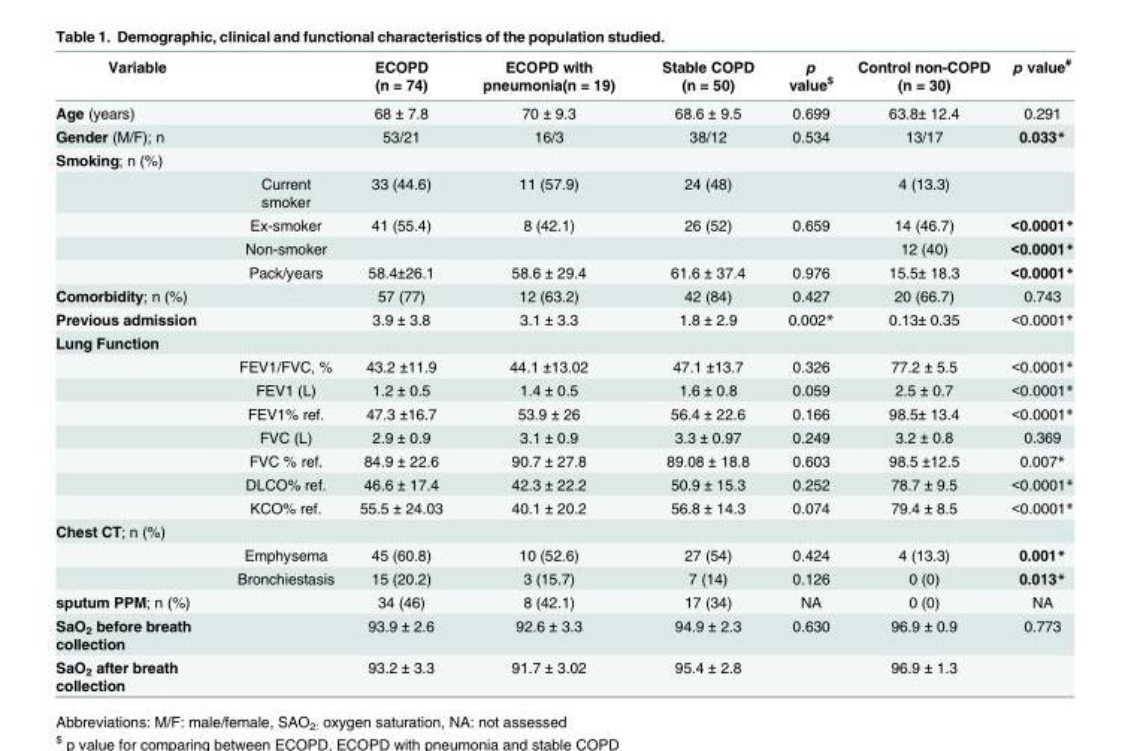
<table><thead><tr><td>Variable</td><td></td><td>ECOPD (n = 74)</td><td>ECOPD with pneumonia(n = 19)</td><td>Stable COPD (n = 50)</td><td>p value<sup>$</sup></td><td>Control non-COPD (n = 30)</td><td>p value<sup>#</sup></td></tr></thead><tbody><tr><td>Age (years)</td><td></td><td>68 ± 7.8</td><td>70 ± 9.3</td><td>68.6 ± 9.5</td><td>0.699</td><td>63.8± 12.4</td><td>0.291</td></tr><tr><td>Gender (M/F); n</td><td></td><td>53/21</td><td>16/3</td><td>38/12</td><td>0.534</td><td>13/17</td><td>0.033*</td></tr><tr><td colspan="8">Smoking; n (%)</td></tr><tr><td></td><td>Current smoker</td><td>33 (44.6)</td><td>11 (57.9)</td><td>24 (48)</td><td></td><td>4 (13.3)</td><td></td></tr><tr><td></td><td>Ex-smoker</td><td>41 (55.4)</td><td>8 (42.1)</td><td>26 (52)</td><td>0.659</td><td>14 (46.7)</td><td>&lt;0.0001*</td></tr><tr><td></td><td>Non-smoker</td><td></td><td></td><td></td><td></td><td>12 (40)</td><td>&lt;0.0001*</td></tr><tr><td></td><td>Pack/years</td><td>58.4±26.1</td><td>58.6 ± 29.4</td><td>61.6 ± 37.4</td><td>0.976</td><td>15.5± 18.3</td><td>&lt;0.0001*</td></tr><tr><td>Comorbidity; n (%)</td><td></td><td>57 (77)</td><td>12 (63.2)</td><td>42 (84)</td><td>0.427</td><td>20 (66.7)</td><td>0.743</td></tr><tr><td>Previous admission</td><td></td><td>3.9 ± 3.8</td><td>3.1 ± 3.3</td><td>1.8 ± 2.9</td><td>0.002*</td><td>0.13± 0.35</td><td>&lt;0.0001*</td></tr><tr><td colspan="8">Lung Function</td></tr><tr><td></td><td>FEV1/FVC, %</td><td>43.2 ±11.9</td><td>44.1 ±13.02</td><td>47.1 ±13.7</td><td>0.326</td><td>77.2 ± 5.5</td><td>&lt;0.0001*</td></tr><tr><td></td><td>FEV1 (L)</td><td>1.2 ± 0.5</td><td>1.4 ± 0.5</td><td>1.6 ± 0.8</td><td>0.059</td><td>2.5 ± 0.7</td><td>&lt;0.0001*</td></tr><tr><td></td><td>FEV1% ref.</td><td>47.3 ±16.7</td><td>53.9 ± 26</td><td>56.4 ± 22.6</td><td>0.166</td><td>98.5± 13.4</td><td>&lt;0.0001*</td></tr><tr><td></td><td>FVC (L)</td><td>2.9 ± 0.9</td><td>3.1 ± 0.9</td><td>3.3 ± 0.97</td><td>0.249</td><td>3.2 ± 0.8</td><td>0.369</td></tr><tr><td></td><td>FVC % ref.</td><td>84.9 ± 22.6</td><td>90.7 ± 27.8</td><td>89.08 ± 18.8</td><td>0.603</td><td>98.5 ±12.5</td><td>0.007*</td></tr><tr><td></td><td>DLCO% ref.</td><td>46.6 ± 17.4</td><td>42.3 ± 22.2</td><td>50.9 ± 15.3</td><td>0.252</td><td>78.7 ± 9.5</td><td>&lt;0.0001*</td></tr><tr><td></td><td>KCO% ref.</td><td>55.5 ± 24.03</td><td>40.1 ± 20.2</td><td>56.8 ± 14.3</td><td>0.074</td><td>79.4 ± 8.5</td><td>&lt;0.0001*</td></tr><tr><td colspan="8">Chest CT; n (%)</td></tr><tr><td></td><td>Emphysema</td><td>45 (60.8)</td><td>10 (52.6)</td><td>27 (54)</td><td>0.424</td><td>4 (13.3)</td><td>0.001*</td></tr><tr><td></td><td>Bronchiestasis</td><td>15 (20.2)</td><td>3 (15.7)</td><td>7 (14)</td><td>0.126</td><td>0 (0)</td><td>0.013*</td></tr><tr><td>sputum PPM; n (%)</td><td></td><td>34 (46)</td><td>8 (42.1)</td><td>17 (34)</td><td>NA</td><td>0 (0)</td><td>NA</td></tr><tr><td>SaO<sub>2</sub> before breath collection</td><td></td><td>93.9 ± 2.6</td><td>92.6 ± 3.3</td><td>94.9 ± 2.3</td><td>0.630</td><td>96.9 ± 0.9</td><td>0.773</td></tr><tr><td>SaO<sub>2</sub> after breath collection</td><td></td><td>93.2 ± 3.3</td><td>91.7 ± 3.02</td><td>95.4 ± 2.8</td><td></td><td>96.9 ± 1.3</td><td></td></tr></tbody></table>